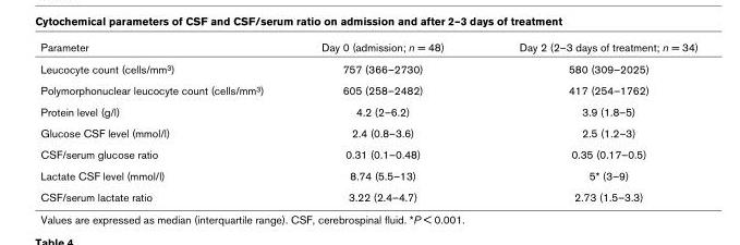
<table><thead><tr><td>Parameter</td><td>Day 0 (admission; n = 48)</td><td>Day 2 (2–3 days of treatment; n = 34)</td></tr></thead><tbody><tr><td>Leucocyte count (cells/mm3)</td><td>757 (366–2730)</td><td>580 (309–2025)</td></tr><tr><td>Polymorphonuclear leucocyte count (cells/mm3)</td><td>605 (258–2482)</td><td>417 (254–1762)</td></tr><tr><td>Protein level (g/l)</td><td>4.2 (2–6.2)</td><td>3.9 (1.8–5)</td></tr><tr><td>Glucose CSF level (mmol/l)</td><td>2.4 (0.8–3.6)</td><td>2.5 (1.2–3)</td></tr><tr><td>CSF/serum glucose ratio</td><td>0.31 (0.1–0.48)</td><td>0.35 (0.17–0.5)</td></tr><tr><td>Lactate CSF level (mmol/l)</td><td>8.74 (5.5–13)</td><td>5* (3–9)</td></tr><tr><td>CSF/serum lactate ratio</td><td>3.22 (2.4–4.7)</td><td>2.73 (1.5–3.3)</td></tr></tbody></table>